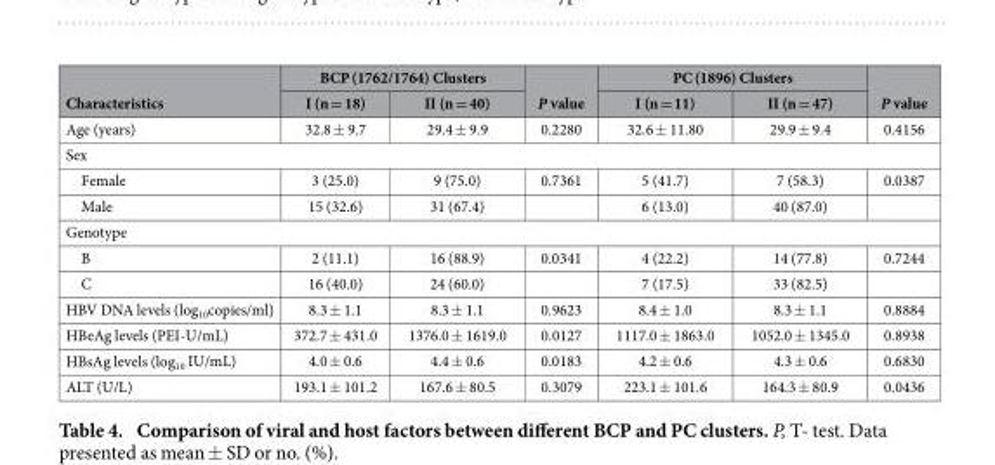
<table><thead><tr><td rowspan="2">Characteristics</td><td colspan="2">BCP (1762/1764) Clusters</td><td rowspan="2">P value</td><td colspan="2">PC (1896) Clusters</td><td rowspan="2">P value</td></tr><tr><td>I (n = 18)</td><td>II (n = 40)</td><td>I (n = 11)</td><td>II (n = 47)</td></tr></thead><tbody><tr><td>Age (years)</td><td>32.8 ± 9.7</td><td>29.4 ± 9.9</td><td>0.2280</td><td>32.6 ± 11.80</td><td>29.9 ± 9.4</td><td>0.4156</td></tr><tr><td colspan="7">Sex</td></tr><tr><td>Female</td><td>3 (25.0)</td><td>9 (75.0)</td><td>0.7361</td><td>5 (41.7)</td><td>7 (58.3)</td><td>0.0387</td></tr><tr><td>Male</td><td>15 (32.6)</td><td>31 (67.4)</td><td></td><td>6 (13.0)</td><td>40 (87.0)</td><td></td></tr><tr><td colspan="7">Genotype</td></tr><tr><td>B</td><td>2 (11.1)</td><td>16 (88.9)</td><td>0.0341</td><td>4 (22.2)</td><td>14 (77.8)</td><td>0.7244</td></tr><tr><td>C</td><td>16 (40.0)</td><td>24 (60.0)</td><td></td><td>7 (17.5)</td><td>33 (82.5)</td><td></td></tr><tr><td>HBV DNA levels (log<sub>10</sub>copies/ml)</td><td>8.3 ± 1.1</td><td>8.3 ± 1.1</td><td>0.9623</td><td>8.4 ± 1.0</td><td>8.3 ± 1.1</td><td>0.8884</td></tr><tr><td>HBeAg levels (PEI-U/mL)</td><td>372.7 ± 431.0</td><td>1376.0 ± 1619.0</td><td>0.0127</td><td>1117.0 ± 1863.0</td><td>1052.0 ± 1345.0</td><td>0.8938</td></tr><tr><td>HBsAg levels (log<sub>10</sub> IU/mL)</td><td>4.0 ± 0.6</td><td>4.4 ± 0.6</td><td>0.0183</td><td>4.2 ± 0.6</td><td>4.3 ± 0.6</td><td>0.6830</td></tr><tr><td>ALT (U/L)</td><td>193.1 ± 101.2</td><td>167.6 ± 80.5</td><td>0.3079</td><td>223.1 ± 101.6</td><td>164.3 ± 80.9</td><td>0.0436</td></tr></tbody></table>